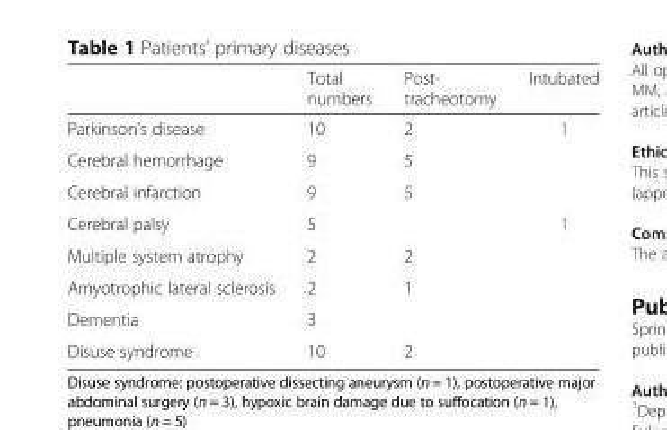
<table><thead><tr><td></td><td>Total numbers</td><td>Post- tracheotomy</td><td>Intubated</td></tr></thead><tbody><tr><td>Parkinson’s disease</td><td>10</td><td>2</td><td>1</td></tr><tr><td>Cerebral hemorrhage</td><td>9</td><td>5</td><td></td></tr><tr><td>Cerebral infarction</td><td>9</td><td>5</td><td></td></tr><tr><td>Cerebral palsy</td><td>5</td><td></td><td>1</td></tr><tr><td>Multiple system atrophy</td><td>2</td><td>2</td><td></td></tr><tr><td>Amyotrophic lateral sclerosis</td><td>2</td><td>1</td><td></td></tr><tr><td>Dementia</td><td>3</td><td></td><td></td></tr><tr><td>Disuse syndrome</td><td>10</td><td>2</td><td></td></tr></tbody></table>